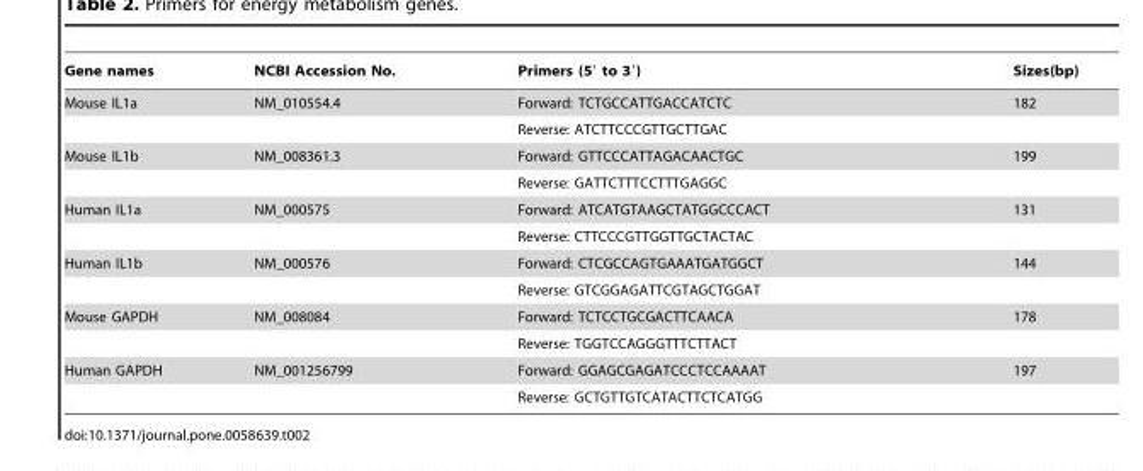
<table><thead><tr><td>Gene names</td><td>NCBI Accession No.</td><td>Primers (5′ to 3′)</td><td>Sizes(bp)</td></tr></thead><tbody><tr><td rowspan="2">Mouse IL1a</td><td>NM_010554.4</td><td>Forward: TCTGCCATTGACCATCTC</td><td>182</td></tr><tr><td></td><td>Reverse: ATCTTCCCGTTGCTTGAC</td><td></td></tr><tr><td rowspan="2">Mouse IL1b</td><td>NM_008361.3</td><td>Forward: GTTCCCATTAGACAACTGC</td><td>199</td></tr><tr><td></td><td>Reverse: GATTCTTTCCTTTGAGGC</td><td></td></tr><tr><td rowspan="2">Human IL1a</td><td>NM_000575</td><td>Forward: ATCATGTAAGCTATGGCCCACT</td><td>131</td></tr><tr><td></td><td>Reverse: CTTCCCGTTGGTTGCTACTAC</td><td></td></tr><tr><td rowspan="2">Human IL1b</td><td>NM_000576</td><td>Forward: CTCGCCAGTGAAATGATGGCT</td><td>144</td></tr><tr><td></td><td>Reverse: GTCGGAGATTCGTAGCTGGAT</td><td></td></tr><tr><td rowspan="2">Mouse GAPDH</td><td>NM_008084</td><td>Forward: TCTCCTGCGACTTCAACA</td><td>178</td></tr><tr><td></td><td>Reverse: TGGTCCAGGGTTTCTTACT</td><td></td></tr><tr><td rowspan="2">Human GAPDH</td><td>NM_001256799</td><td>Forward: GGAGCGAGATCCCTCCAAAAT</td><td>197</td></tr><tr><td></td><td>Reverse: GCTGTTGTCATACTTCTCATGG</td><td></td></tr></tbody></table>